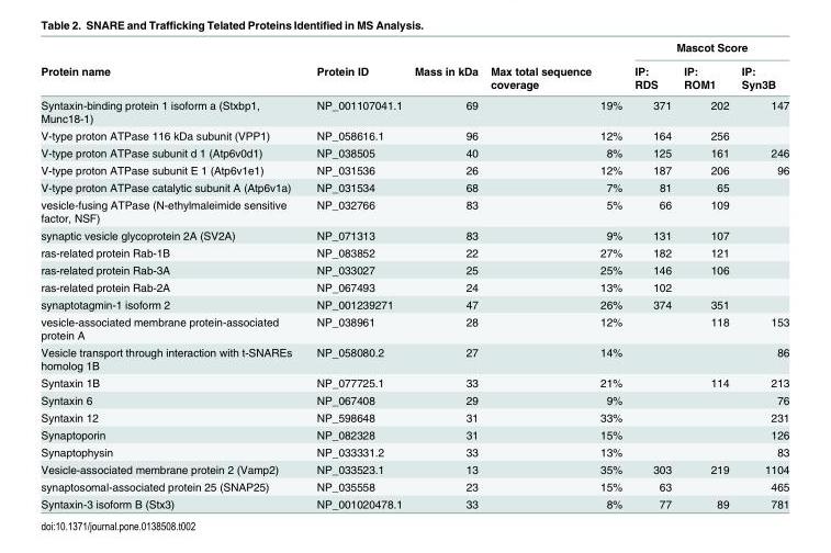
<table><thead><tr><td rowspan="2">Protein name</td><td rowspan="2">Protein ID</td><td rowspan="2">Mass in kDa</td><td rowspan="2">Max total sequence coverage</td><td colspan="3">Mascot Score</td></tr><tr><td>IP: RDS</td><td>IP: ROM1</td><td>IP: Syn3B</td></tr></thead><tbody><tr><td>Syntaxin-binding protein 1 isoform a (Stxbp1, Munc18-1)</td><td>NP_001107041.1</td><td>69</td><td>19%</td><td>371</td><td>202</td><td>147</td></tr><tr><td>V-type proton ATPase 116 kDa subunit (VPP1)</td><td>NP_058616.1</td><td>96</td><td>12%</td><td>164</td><td>256</td><td></td></tr><tr><td>V-type proton ATPase subunit d 1 (Atp6v0d1)</td><td>NP_038505</td><td>40</td><td>8%</td><td>125</td><td>161</td><td>246</td></tr><tr><td>V-type proton ATPase subunit E 1 (Atp6v1e1)</td><td>NP_031536</td><td>26</td><td>12%</td><td>187</td><td>206</td><td>96</td></tr><tr><td>V-type proton ATPase catalytic subunit A (Atp6v1a)</td><td>NP_031534</td><td>68</td><td>7%</td><td>81</td><td>65</td><td></td></tr><tr><td>vesicle-fusing ATPase (N-ethylmaleimide sensitive factor, NSF)</td><td>NP_032766</td><td>83</td><td>5%</td><td>66</td><td>109</td><td></td></tr><tr><td>synaptic vesicle glycoprotein 2A (SV2A)</td><td>NP_071313</td><td>83</td><td>9%</td><td>131</td><td>107</td><td></td></tr><tr><td>ras-related protein Rab-1B</td><td>NP_083852</td><td>22</td><td>27%</td><td>182</td><td>121</td><td></td></tr><tr><td>ras-related protein Rab-3A</td><td>NP_033027</td><td>25</td><td>25%</td><td>146</td><td>106</td><td></td></tr><tr><td>ras-related protein Rab-2A</td><td>NP_067493</td><td>24</td><td>13%</td><td>102</td><td></td><td></td></tr><tr><td>synaptotagmin-1 isoform 2</td><td>NP_001239271</td><td>47</td><td>26%</td><td>374</td><td>351</td><td></td></tr><tr><td>vesicle-associated membrane protein-associated protein A</td><td>NP_038961</td><td>28</td><td>12%</td><td></td><td>118</td><td>153</td></tr><tr><td>Vesicle transport through interaction with t-SNAREs homolog 1B</td><td>NP_058080.2</td><td>27</td><td>14%</td><td></td><td></td><td>86</td></tr><tr><td>Syntaxin 1B</td><td>NP_077725.1</td><td>33</td><td>21%</td><td></td><td>114</td><td>213</td></tr><tr><td>Syntaxin 6</td><td>NP_067408</td><td>29</td><td>9%</td><td></td><td></td><td>76</td></tr><tr><td>Syntaxin 12</td><td>NP_598648</td><td>31</td><td>33%</td><td></td><td></td><td>231</td></tr><tr><td>Synaptoporin</td><td>NP_082328</td><td>31</td><td>15%</td><td></td><td></td><td>126</td></tr><tr><td>Synaptophysin</td><td>NP_033331.2</td><td>33</td><td>13%</td><td></td><td></td><td>83</td></tr><tr><td>Vesicle-associated membrane protein 2 (Vamp2)</td><td>NP_033523.1</td><td>13</td><td>35%</td><td>303</td><td>219</td><td>1104</td></tr><tr><td>synaptosomal-associated protein 25 (SNAP25)</td><td>NP_035558</td><td>23</td><td>15%</td><td>63</td><td></td><td>465</td></tr><tr><td>Syntaxin-3 isoform B (Stx3)</td><td>NP_001020478.1</td><td>33</td><td>8%</td><td>77</td><td>89</td><td>781</td></tr></tbody></table>